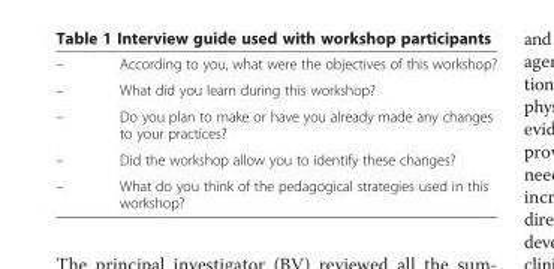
<table><tbody><tr><td>–</td><td>According to you, what were the objectives of this workshop?</td></tr><tr><td>–</td><td>What did you learn during this workshop?</td></tr><tr><td>–</td><td>Do you plan to make or have you already made any changes to your practices?</td></tr><tr><td>–</td><td>Did the workshop allow you to identify these changes?</td></tr><tr><td>–</td><td>What do you think of the pedagogical strategies used in this workshop?</td></tr></tbody></table>